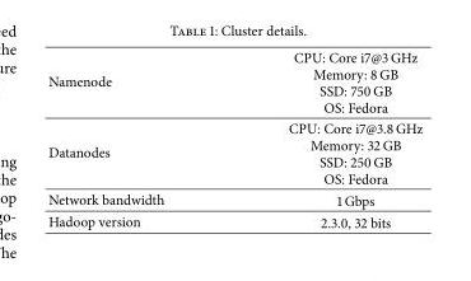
<table><tbody><tr><td>Namenode</td><td>CPU: Core i7@3 GHz Memory: 8 GB SSD: 750 GB OS: Fedora</td></tr><tr><td>Datanodes</td><td>CPU: Core i7@3.8 GHz Memory: 32 GB SSD: 250 GB OS: Fedora</td></tr><tr><td>Network bandwidth</td><td>1 Gbps</td></tr><tr><td>Hadoop version</td><td>2.3.0, 32 bits</td></tr></tbody></table>